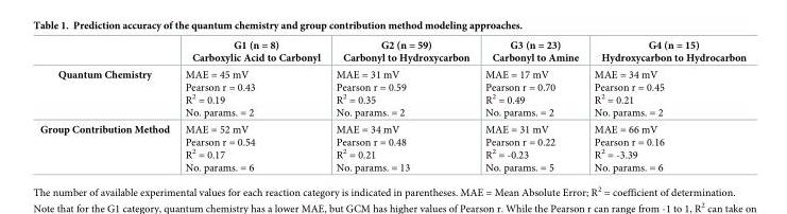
<table><thead><tr><td></td><td>G1 (n = 8) Carboxylic Acid to Carbonyl</td><td>G2 (n = 59) Carbonyl to Hydroxycarbon</td><td>G3 (n = 23) Carbonyl to Amine</td><td>G4 (n = 15) Hydroxycarbon to Hydrocarbon</td></tr></thead><tbody><tr><td>Quantum Chemistry</td><td>MAE = 45 mV Pearson r = 0.43 R<sup>2</sup> = 0.19 No. params. = 2</td><td>MAE = 31 mV Pearson r = 0.59 R<sup>2</sup> = 0.35 No. params. = 2</td><td>MAE = 17 mV Pearson r = 0.70 R<sup>2</sup> = 0.49 No. params. = 2</td><td>MAE = 34 mV Pearson r = 0.45 R<sup>2</sup> = 0.21 No. params. = 2</td></tr><tr><td>Group Contribution Method</td><td>MAE = 52 mV Pearson r = 0.54 R<sup>2</sup> = 0.17 No. params. = 6</td><td>MAE = 34 mV Pearson r = 0.48 R<sup>2</sup> = 0.21 No. params. = 13</td><td>MAE = 31 mV Pearson r = 0.22 R<sup>2</sup> = -0.23 No. params. = 5</td><td>MAE = 66 mV Pearson r = 0.16 R<sup>2</sup> = -3.39 No. params. = 6</td></tr></tbody></table>